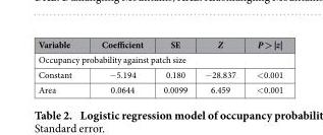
<table><thead><tr><td>Variable</td><td>Coefficient</td><td>SE</td><td>Z</td><td>P &gt; |z|</td></tr></thead><tbody><tr><td colspan="5">Occupancy probability against patch size</td></tr><tr><td>Constant</td><td>− 5.194</td><td>0.180</td><td>− 28.837</td><td>&lt; 0.001</td></tr><tr><td>Area</td><td>0.0644</td><td>0.0099</td><td>6.459</td><td>&lt; 0.001</td></tr></tbody></table>